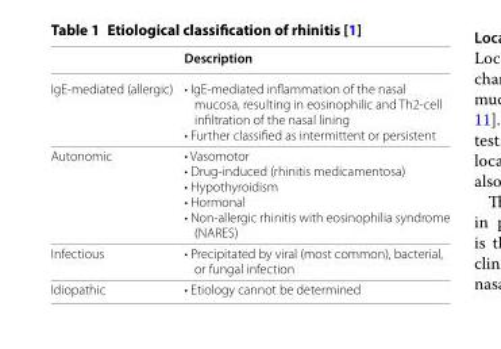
<table><thead><tr><td></td><td>Description</td></tr></thead><tbody><tr><td>IgE-mediated (allergic)</td><td>• IgE-mediated inflammation of the nasal mucosa, resulting in eosinophilic and Th2-cell infiltration of the nasal lining • Further classified as intermittent or persistent</td></tr><tr><td>Autonomic</td><td>• Vasomotor • Drug-induced (rhinitis medicamentosa) • Hypothyroidism • Hormonal • Non-allergic rhinitis with eosinophilia syndrome (NARES)</td></tr><tr><td>Infectious</td><td>• Precipitated by viral (most common), bacterial, or fungal infection</td></tr><tr><td>Idiopathic</td><td>• Etiology cannot be determined</td></tr></tbody></table>